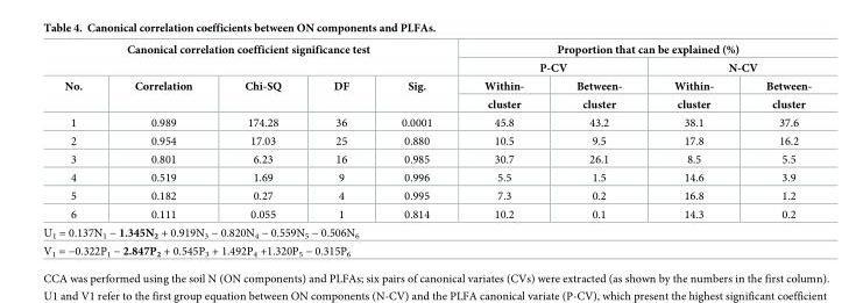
<table><thead><tr><td rowspan="2" colspan="5">Canonical correlation coefficient significance test</td><td colspan="4">Proportion that can be explained (%)</td></tr><tr><td colspan="2">P-CV</td><td colspan="2">N-CV</td></tr><tr><td rowspan="2">No.</td><td rowspan="2">Correlation</td><td rowspan="2">Chi-SQ</td><td rowspan="2">DF</td><td rowspan="2">Sig.</td><td rowspan="2">Within- cluster</td><td rowspan="2">Between- cluster</td><td rowspan="2">Within- cluster</td><td rowspan="2">Between- cluster</td></tr><tr></tr></thead><tbody><tr><td>1</td><td>0.989</td><td>174.28</td><td>36</td><td>0.0001</td><td>45.8</td><td>43.2</td><td>38.1</td><td>37.6</td></tr><tr><td>2</td><td>0.954</td><td>17.03</td><td>25</td><td>0.880</td><td>10.5</td><td>9.5</td><td>17.8</td><td>16.2</td></tr><tr><td>3</td><td>0.801</td><td>6.23</td><td>16</td><td>0.985</td><td>30.7</td><td>26.1</td><td>8.5</td><td>5.5</td></tr><tr><td>4</td><td>0.519</td><td>1.69</td><td>9</td><td>0.996</td><td>5.5</td><td>1.5</td><td>14.6</td><td>3.9</td></tr><tr><td>5</td><td>0.182</td><td>0.27</td><td>4</td><td>0.995</td><td>7.3</td><td>0.2</td><td>16.8</td><td>1.2</td></tr><tr><td>6</td><td>0.111</td><td>0.055</td><td>1</td><td>0.814</td><td>10.2</td><td>0.1</td><td>14.3</td><td>0.2</td></tr><tr><td colspan="9">U<sub>1</sub> = 0.137N<sub>1</sub> − 1.345N<sub>2</sub> + 0.919N<sub>3</sub> − 0.820N<sub>4</sub> − 0.559N<sub>5</sub> − 0.506N<sub>6</sub></td></tr><tr><td colspan="9">V<sub>1</sub> = −0.322P<sub>1</sub> − 2.847P<sub>2</sub> + 0.545P<sub>3</sub> + 1.492P<sub>4</sub> +1.320P<sub>5</sub> − 0.315P<sub>6</sub></td></tr></tbody></table>